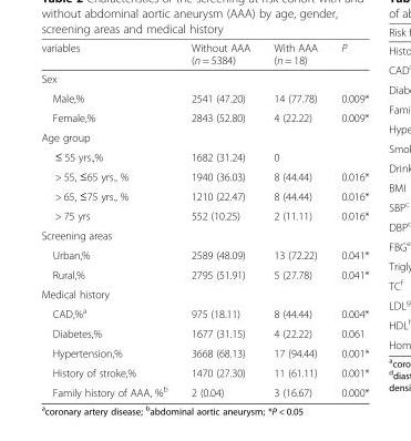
<table><thead><tr><td>variables</td><td>Without AAA (n = 5384)</td><td>With AAA (n = 18)</td><td>P</td></tr></thead><tbody><tr><td colspan="4">Sex</td></tr><tr><td>Male,%</td><td>2541 (47.20)</td><td>14 (77.78)</td><td>0.009*</td></tr><tr><td>Female,%</td><td>2843 (52.80)</td><td>4 (22.22)</td><td>0.009*</td></tr><tr><td colspan="4">Age group</td></tr><tr><td>≤ 55 yrs.,%</td><td>1682 (31.24)</td><td>0</td><td></td></tr><tr><td>&gt; 55, ≤65 yrs., %</td><td>1940 (36.03)</td><td>8 (44.44)</td><td>0.016*</td></tr><tr><td>&gt; 65, ≤75 yrs., %</td><td>1210 (22.47)</td><td>8 (44.44)</td><td>0.016*</td></tr><tr><td>&gt; 75 yrs</td><td>552 (10.25)</td><td>2 (11.11)</td><td>0.016*</td></tr><tr><td colspan="4">Screening areas</td></tr><tr><td>Urban,%</td><td>2589 (48.09)</td><td>13 (72.22)</td><td>0.041*</td></tr><tr><td>Rural,%</td><td>2795 (51.91)</td><td>5 (27.78)</td><td>0.041*</td></tr><tr><td colspan="4">Medical history</td></tr><tr><td>CAD,%<sup>a</sup></td><td>975 (18.11)</td><td>8 (44.44)</td><td>0.004*</td></tr><tr><td>Diabetes,%</td><td>1677 (31.15)</td><td>4 (22.22)</td><td>0.061</td></tr><tr><td>Hypertension,%</td><td>3668 (68.13)</td><td>17 (94.44)</td><td>0.001*</td></tr><tr><td>History of stroke,%</td><td>1470 (27.30)</td><td>11 (61.11)</td><td>0.001*</td></tr><tr><td>Family history of AAA, %<sup>b</sup></td><td>2 (0.04)</td><td>3 (16.67)</td><td>0.000*</td></tr></tbody></table>